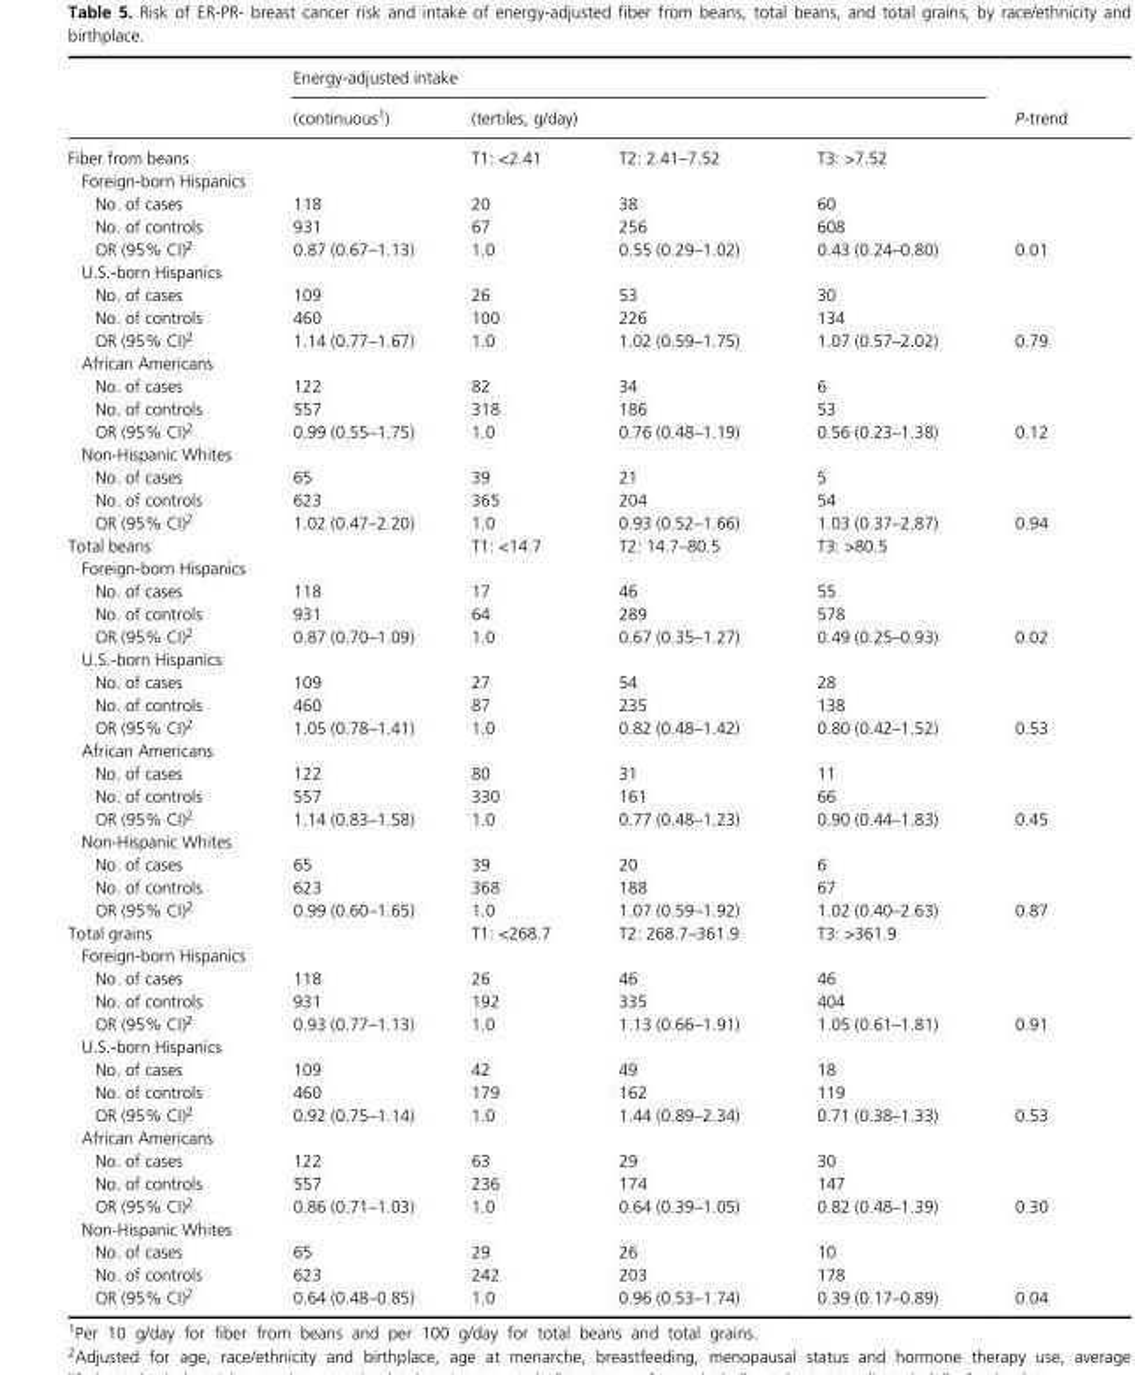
<table><thead><tr><td rowspan="3">Fiber from beans</td><td colspan="4">Energy- adjusted intake</td><td rowspan="3">P- trend</td></tr><tr><td rowspan="2">(continuous1)</td><td colspan="3">(tertiles, g/day)</td></tr><tr><td>T1: &lt;2.41</td><td>T2: 2.41–7.52</td><td>T3: &gt;7.52</td></tr></thead><tbody><tr><td colspan="6">Foreign- born Hispanics</td></tr><tr><td>No. of cases</td><td>118</td><td>20</td><td>38</td><td>60</td><td></td></tr><tr><td>No. of controls</td><td>931</td><td>67</td><td>256</td><td>608</td><td></td></tr><tr><td>OR (95% CI)2</td><td>0.87 (0.67–1.13)</td><td>1.0</td><td>0.55 (0.29–1.02)</td><td>0.43 (0.24–0.80)</td><td>0.01</td></tr><tr><td colspan="6">U.S.- born Hispanics</td></tr><tr><td>No. of cases</td><td>109</td><td>26</td><td>53</td><td>30</td><td></td></tr><tr><td>No. of controls</td><td>460</td><td>100</td><td>226</td><td>134</td><td></td></tr><tr><td>OR (95% CI)2</td><td>1.14 (0.77–1.67)</td><td>1.0</td><td>1.02 (0.59–1.75)</td><td>1.07 (0.57–2.02)</td><td>0.79</td></tr><tr><td colspan="6">African Americans</td></tr><tr><td>No. of cases</td><td>122</td><td>82</td><td>34</td><td>6</td><td></td></tr><tr><td>No. of controls</td><td>557</td><td>318</td><td>186</td><td>53</td><td></td></tr><tr><td>OR (95% CI)2</td><td>0.99 (0.55–1.75)</td><td>1.0</td><td>0.76 (0.48–1.19)</td><td>0.56 (0.23–1.38)</td><td>0.12</td></tr><tr><td colspan="6">Non- Hispanic Whites</td></tr><tr><td>No. of cases</td><td>65</td><td>39</td><td>21</td><td>5</td><td></td></tr><tr><td>No. of controls</td><td>623</td><td>365</td><td>204</td><td>54</td><td></td></tr><tr><td>OR (95% CI)2</td><td>1.02 (0.47–2.20)</td><td>1.0</td><td>0.93 (0.52–1.66)</td><td>1.03 (0.37–2.87)</td><td>0.94</td></tr><tr><td>Total beans</td><td></td><td>T1: &lt;14.7</td><td>T2: 14.7–80.5</td><td>T3: &gt;80.5</td><td></td></tr><tr><td colspan="6">Foreign- born Hispanics</td></tr><tr><td>No. of cases</td><td>118</td><td>17</td><td>46</td><td>55</td><td></td></tr><tr><td>No. of controls</td><td>931</td><td>64</td><td>289</td><td>578</td><td></td></tr><tr><td>OR (95% CI)2</td><td>0.87 (0.70–1.09)</td><td>1.0</td><td>0.67 (0.35–1.27)</td><td>0.49 (0.25–0.93)</td><td>0.02</td></tr><tr><td colspan="6">U.S.- born Hispanics</td></tr><tr><td>No. of cases</td><td>109</td><td>27</td><td>54</td><td>28</td><td></td></tr><tr><td>No. of controls</td><td>460</td><td>87</td><td>235</td><td>138</td><td></td></tr><tr><td>OR (95% CI)2</td><td>1.05 (0.78–1.41)</td><td>1.0</td><td>0.82 (0.48–1.42)</td><td>0.80 (0.42–1.52)</td><td>0.53</td></tr><tr><td colspan="6">African Americans</td></tr><tr><td>No. of cases</td><td>122</td><td>80</td><td>31</td><td>11</td><td></td></tr><tr><td>No. of controls</td><td>557</td><td>330</td><td>161</td><td>66</td><td></td></tr><tr><td>OR (95% CI)2</td><td>1.14 (0.83–1.58)</td><td>1.0</td><td>0.77 (0.48–1.23)</td><td>0.90 (0.44–1.83)</td><td>0.45</td></tr><tr><td colspan="6">Non- Hispanic Whites</td></tr><tr><td>No. of cases</td><td>65</td><td>39</td><td>20</td><td>6</td><td></td></tr><tr><td>No. of controls</td><td>623</td><td>368</td><td>188</td><td>67</td><td></td></tr><tr><td>OR (95% CI)2</td><td>0.99 (0.60–1.65)</td><td>1.0</td><td>1.07 (0.59–1.92)</td><td>1.02 (0.40–2.63)</td><td>0.87</td></tr><tr><td>Total grains</td><td></td><td>T1: &lt;268.7</td><td>T2: 268.7–361.9</td><td>T3: &gt;361.9</td><td></td></tr><tr><td colspan="6">Foreign- born Hispanics</td></tr><tr><td>No. of cases</td><td>118</td><td>26</td><td>46</td><td>46</td><td></td></tr><tr><td>No. of controls</td><td>931</td><td>192</td><td>335</td><td>404</td><td></td></tr><tr><td>OR (95% CI)2</td><td>0.93 (0.77–1.13)</td><td>1.0</td><td>1.13 (0.66–1.91)</td><td>1.05 (0.61–1.81)</td><td>0.91</td></tr><tr><td colspan="6">U.S.- born Hispanics</td></tr><tr><td>No. of cases</td><td>109</td><td>42</td><td>49</td><td>18</td><td></td></tr><tr><td>No. of controls</td><td>460</td><td>179</td><td>162</td><td>119</td><td></td></tr><tr><td>OR (95% CI)2</td><td>0.92 (0.75–1.14)</td><td>1.0</td><td>1.44 (0.89–2.34)</td><td>0.71 (0.38–1.33)</td><td>0.53</td></tr><tr><td colspan="6">African Americans</td></tr><tr><td>No. of cases</td><td>122</td><td>63</td><td>29</td><td>30</td><td></td></tr><tr><td>No. of controls</td><td>557</td><td>236</td><td>174</td><td>147</td><td></td></tr><tr><td>OR (95% CI)2</td><td>0.86 (0.71–1.03)</td><td>1.0</td><td>0.64 (0.39–1.05)</td><td>0.82 (0.48–1.39)</td><td>0.30</td></tr><tr><td colspan="6">Non- Hispanic Whites</td></tr><tr><td>No. of cases</td><td>65</td><td>29</td><td>26</td><td>10</td><td></td></tr><tr><td>No. of controls</td><td>623</td><td>242</td><td>203</td><td>178</td><td></td></tr><tr><td>OR (95% CI)2</td><td>0.64 (0.48–0.85)</td><td>1.0</td><td>0.96 (0.53–1.74)</td><td>0.39 (0.17–0.89)</td><td>0.04</td></tr></tbody></table>